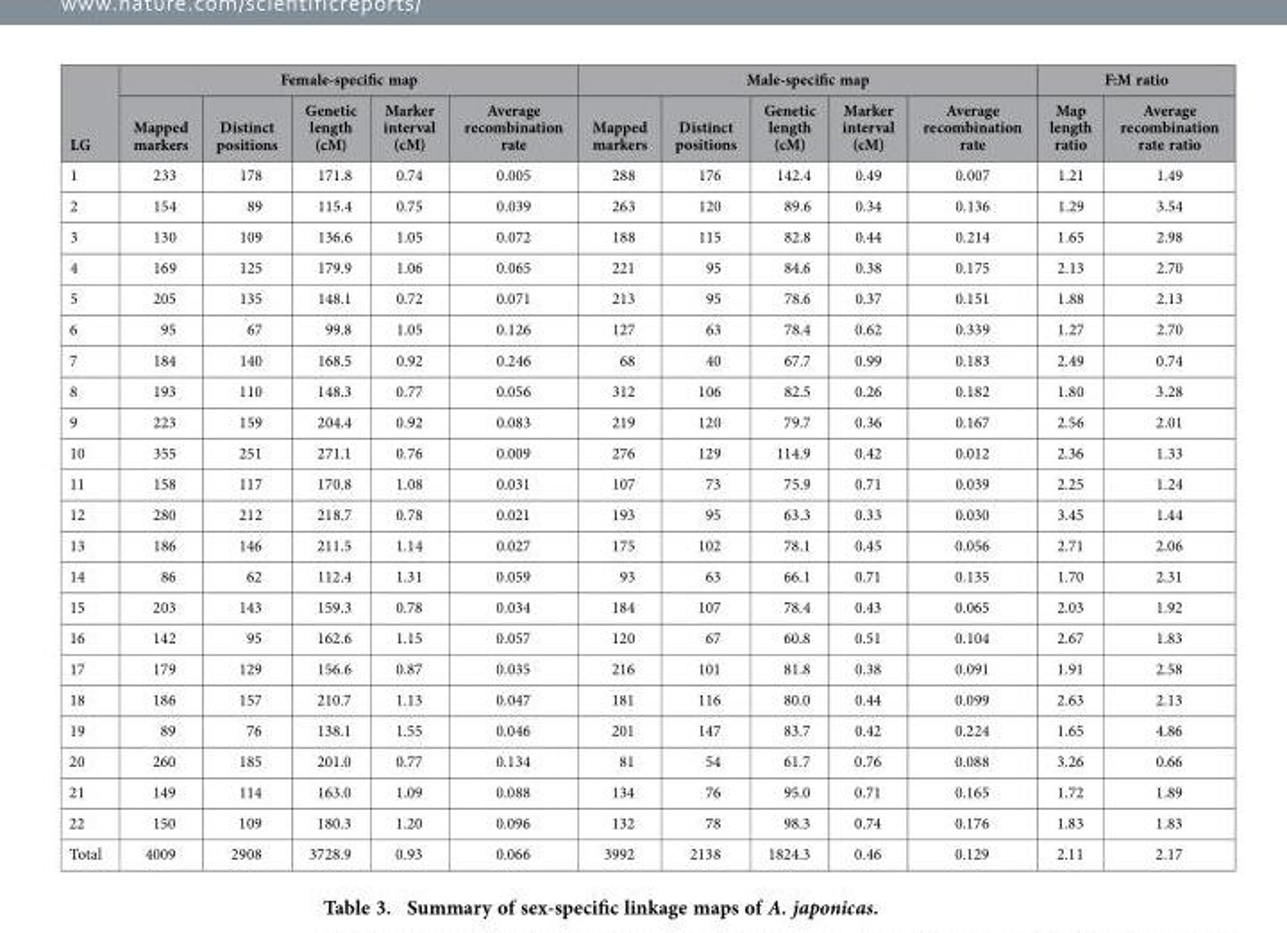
<table><thead><tr><td rowspan="2">LG</td><td colspan="5">Female-specific map</td><td colspan="5">Male-specific map</td><td colspan="2">F:M ratio</td></tr><tr><td>Mapped markers</td><td>Distinct positions</td><td>Genetic length (cM)</td><td>Marker interval (cM)</td><td>Average recombination rate</td><td>Mapped markers</td><td>Distinct positions</td><td>Genetic length (cM)</td><td>Marker interval (cM)</td><td>Average recombination rate</td><td>Map length ratio</td><td>Average recombination rate ratio</td></tr></thead><tbody><tr><td>1</td><td>233</td><td>178</td><td>171.8</td><td>0.74</td><td>0.005</td><td>288</td><td>176</td><td>142.4</td><td>0.49</td><td>0.007</td><td>1.21</td><td>1.49</td></tr><tr><td>2</td><td>154</td><td>89</td><td>115.4</td><td>0.75</td><td>0.039</td><td>263</td><td>120</td><td>89.6</td><td>0.34</td><td>0.136</td><td>1.29</td><td>3.54</td></tr><tr><td>3</td><td>130</td><td>109</td><td>136.6</td><td>1.05</td><td>0.072</td><td>188</td><td>115</td><td>82.8</td><td>0.44</td><td>0.214</td><td>1.65</td><td>2.98</td></tr><tr><td>4</td><td>169</td><td>125</td><td>179.9</td><td>1.06</td><td>0.065</td><td>221</td><td>95</td><td>84.6</td><td>0.38</td><td>0.175</td><td>2.13</td><td>2.70</td></tr><tr><td>5</td><td>205</td><td>135</td><td>148.1</td><td>0.72</td><td>0.071</td><td>213</td><td>95</td><td>78.6</td><td>0.37</td><td>0.151</td><td>1.88</td><td>2.13</td></tr><tr><td>6</td><td>95</td><td>67</td><td>99.8</td><td>1.05</td><td>0.126</td><td>127</td><td>63</td><td>78.4</td><td>0.62</td><td>0.339</td><td>1.27</td><td>2.70</td></tr><tr><td>7</td><td>184</td><td>140</td><td>168.5</td><td>0.92</td><td>0.246</td><td>68</td><td>40</td><td>67.7</td><td>0.99</td><td>0.183</td><td>2.49</td><td>0.74</td></tr><tr><td>8</td><td>193</td><td>110</td><td>148.3</td><td>0.77</td><td>0.056</td><td>312</td><td>106</td><td>82.5</td><td>0.26</td><td>0.182</td><td>1.80</td><td>3.28</td></tr><tr><td>9</td><td>223</td><td>159</td><td>204.4</td><td>0.92</td><td>0.083</td><td>219</td><td>120</td><td>79.7</td><td>0.36</td><td>0.167</td><td>2.56</td><td>2.01</td></tr><tr><td>10</td><td>355</td><td>251</td><td>271.1</td><td>0.76</td><td>0.009</td><td>276</td><td>129</td><td>114.9</td><td>0.42</td><td>0.012</td><td>2.36</td><td>1.33</td></tr><tr><td>11</td><td>158</td><td>117</td><td>170.8</td><td>1.08</td><td>0.031</td><td>107</td><td>73</td><td>75.9</td><td>0.71</td><td>0.039</td><td>2.25</td><td>1.24</td></tr><tr><td>12</td><td>280</td><td>212</td><td>218.7</td><td>0.78</td><td>0.021</td><td>193</td><td>95</td><td>63.3</td><td>0.33</td><td>0.030</td><td>3.45</td><td>1.44</td></tr><tr><td>13</td><td>186</td><td>146</td><td>211.5</td><td>1.14</td><td>0.027</td><td>175</td><td>102</td><td>78.1</td><td>0.45</td><td>0.056</td><td>2.71</td><td>2.06</td></tr><tr><td>14</td><td>86</td><td>62</td><td>112.4</td><td>1.31</td><td>0.059</td><td>93</td><td>63</td><td>66.1</td><td>0.71</td><td>0.135</td><td>1.70</td><td>2.31</td></tr><tr><td>15</td><td>203</td><td>143</td><td>159.3</td><td>0.78</td><td>0.034</td><td>184</td><td>107</td><td>78.4</td><td>0.43</td><td>0.065</td><td>2.03</td><td>1.92</td></tr><tr><td>16</td><td>142</td><td>95</td><td>162.6</td><td>1.15</td><td>0.057</td><td>120</td><td>67</td><td>60.8</td><td>0.51</td><td>0.104</td><td>2.67</td><td>1.83</td></tr><tr><td>17</td><td>179</td><td>129</td><td>156.6</td><td>0.87</td><td>0.035</td><td>216</td><td>101</td><td>81.8</td><td>0.38</td><td>0.091</td><td>1.91</td><td>2.58</td></tr><tr><td>18</td><td>186</td><td>157</td><td>210.7</td><td>1.13</td><td>0.047</td><td>181</td><td>116</td><td>80.0</td><td>0.44</td><td>0.099</td><td>2.63</td><td>2.13</td></tr><tr><td>19</td><td>89</td><td>76</td><td>138.1</td><td>1.55</td><td>0.046</td><td>201</td><td>147</td><td>83.7</td><td>0.42</td><td>0.224</td><td>1.65</td><td>4.86</td></tr><tr><td>20</td><td>260</td><td>185</td><td>201.0</td><td>0.77</td><td>0.134</td><td>81</td><td>54</td><td>61.7</td><td>0.76</td><td>0.088</td><td>3.26</td><td>0.66</td></tr><tr><td>21</td><td>149</td><td>114</td><td>163.0</td><td>1.09</td><td>0.088</td><td>134</td><td>76</td><td>95.0</td><td>0.71</td><td>0.165</td><td>1.72</td><td>1.89</td></tr><tr><td>22</td><td>150</td><td>109</td><td>180.3</td><td>1.20</td><td>0.096</td><td>132</td><td>78</td><td>98.3</td><td>0.74</td><td>0.176</td><td>1.83</td><td>1.83</td></tr><tr><td>Total</td><td>4009</td><td>2908</td><td>3728.9</td><td>0.93</td><td>0.066</td><td>3992</td><td>2138</td><td>1824.3</td><td>0.46</td><td>0.129</td><td>2.11</td><td>2.17</td></tr></tbody></table>